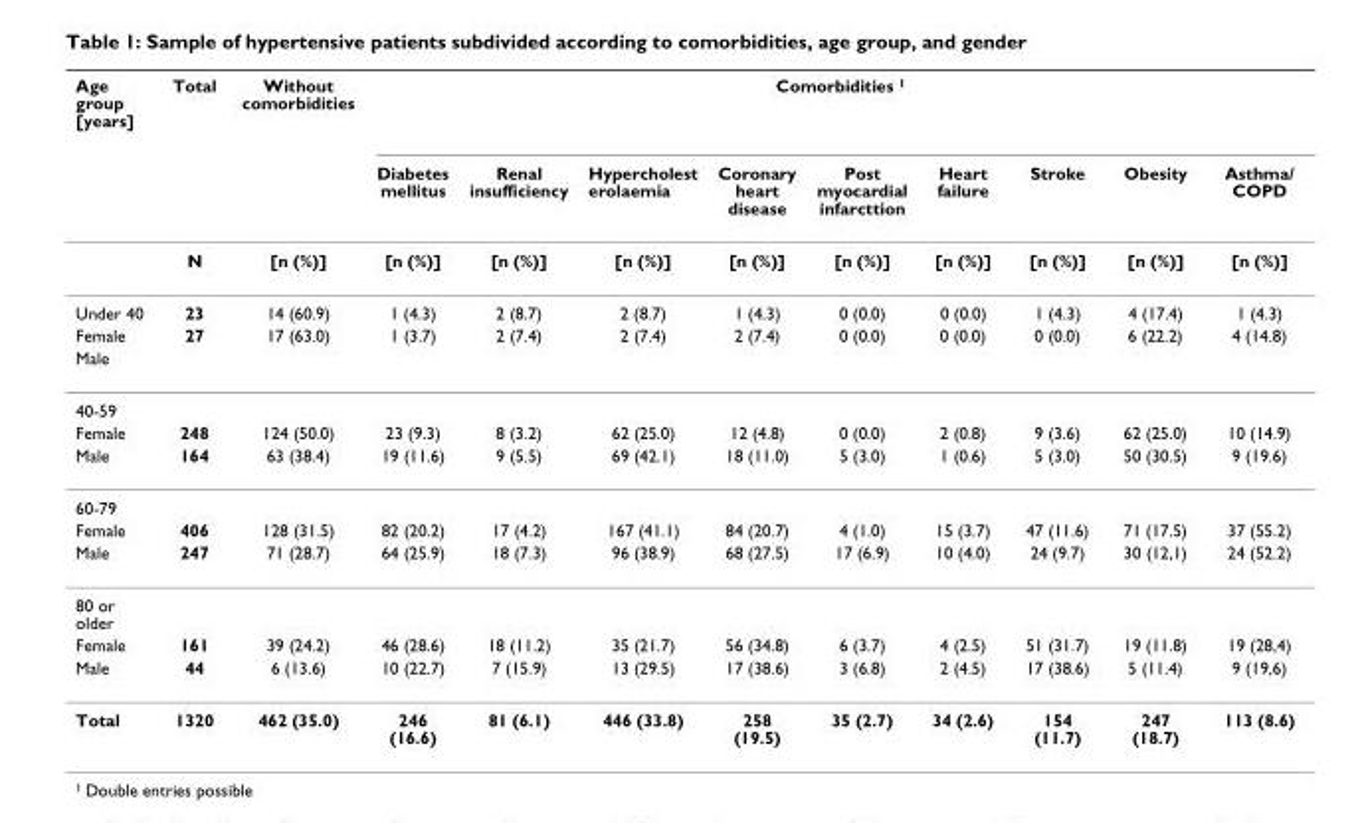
<table><thead><tr><td rowspan="2">Age group [years]</td><td rowspan="2">Total</td><td rowspan="2">Without comorbidities</td><td colspan="9">Comorbidities <sup>1</sup></td></tr><tr><td>Diabetes mellitus</td><td>Renal insufficiency</td><td>Hypercholest erolaemia</td><td>Coronary heart disease</td><td>Post myocardial infarcttion</td><td>Heart failure</td><td>Stroke</td><td>Obesity</td><td>Asthma/ COPD</td></tr></thead><tbody><tr><td></td><td>N</td><td>[n (%)]</td><td>[n (%)]</td><td>[n (%)]</td><td>[n (%)]</td><td>[n (%)]</td><td>[n (%)]</td><td>[n (%)]</td><td>[n (%)]</td><td>[n (%)]</td><td>[n (%)]</td></tr><tr><td>Under 40</td><td>23</td><td>14 (60.9)</td><td>1 (4.3)</td><td>2 (8.7)</td><td>2 (8.7)</td><td>1 (4.3)</td><td>0 (0.0)</td><td>0 (0.0)</td><td>1 (4.3)</td><td>4 (17.4)</td><td>1 (4.3)</td></tr><tr><td>Female</td><td>27</td><td>17 (63.0)</td><td>1 (3.7)</td><td>2 (7.4)</td><td>2 (7.4)</td><td>2 (7.4)</td><td>0 (0.0)</td><td>0 (0.0)</td><td>0 (0.0)</td><td>6 (22.2)</td><td>4 (14.8)</td></tr><tr><td colspan="12">Male</td></tr><tr><td colspan="12">40-59</td></tr><tr><td>Female</td><td>248</td><td>124 (50.0)</td><td>23 (9.3)</td><td>8 (3.2)</td><td>62 (25.0)</td><td>12 (4.8)</td><td>0 (0.0)</td><td>2 (0.8)</td><td>9 (3.6)</td><td>62 (25.0)</td><td>10 (14.9)</td></tr><tr><td>Male</td><td>164</td><td>63 (38.4)</td><td>19 (11.6)</td><td>9 (5.5)</td><td>69 (42.1)</td><td>18 (11.0)</td><td>5 (3.0)</td><td>1 (0.6)</td><td>5 (3.0)</td><td>50 (30.5)</td><td>9 (19.6)</td></tr><tr><td colspan="12">60-79</td></tr><tr><td>Female</td><td>406</td><td>128 (31.5)</td><td>82 (20.2)</td><td>17 (4.2)</td><td>167 (41.1)</td><td>84 (20.7)</td><td>4 (1.0)</td><td>15 (3.7)</td><td>47 (11.6)</td><td>71 (17.5)</td><td>37 (55.2)</td></tr><tr><td>Male</td><td>247</td><td>71 (28.7)</td><td>64 (25.9)</td><td>18 (7.3)</td><td>96 (38.9)</td><td>68 (27.5)</td><td>17 (6.9)</td><td>10 (4.0)</td><td>24 (9.7)</td><td>30 (12,1)</td><td>24 (52.2)</td></tr><tr><td colspan="12">80 or older</td></tr><tr><td>Female</td><td>161</td><td>39 (24.2)</td><td>46 (28.6)</td><td>18 (11.2)</td><td>35 (21.7)</td><td>56 (34.8)</td><td>6 (3.7)</td><td>4 (2.5)</td><td>51 (31.7)</td><td>19 (11.8)</td><td>19 (28,4)</td></tr><tr><td>Male</td><td>44</td><td>6 (13.6)</td><td>10 (22.7)</td><td>7 (15.9)</td><td>13 (29.5)</td><td>17 (38.6)</td><td>3 (6.8)</td><td>2 (4.5)</td><td>17 (38.6)</td><td>5 (11.4)</td><td>9 (19,6)</td></tr><tr><td>Total</td><td>1320</td><td>462 (35.0)</td><td>246 (16.6)</td><td>81 (6.1)</td><td>446 (33.8)</td><td>258 (19.5)</td><td>35 (2.7)</td><td>34 (2.6)</td><td>154 (11.7)</td><td>247 (18.7)</td><td>113 (8.6)</td></tr></tbody></table>